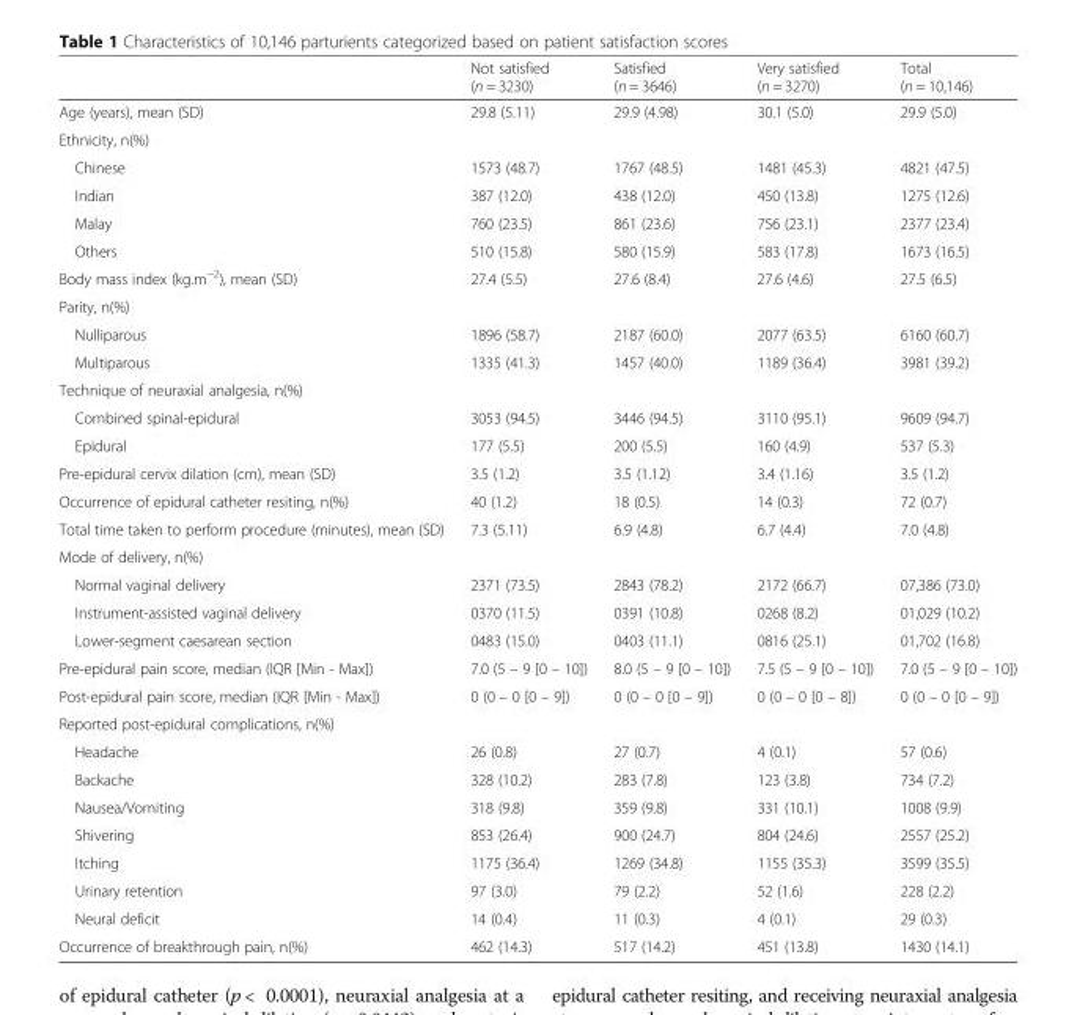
<table><thead><tr><td></td><td>Not satisfied (n = 3230)</td><td>Satisfied (n = 3646)</td><td>Very satisfied (n = 3270)</td><td>Total (n = 10,146)</td></tr></thead><tbody><tr><td>Age (years), mean (SD)</td><td>29.8 (5.11)</td><td>29.9 (4.98)</td><td>30.1 (5.0)</td><td>29.9 (5.0)</td></tr><tr><td colspan="5">Ethnicity, n(%)</td></tr><tr><td>Chinese</td><td>1573 (48.7)</td><td>1767 (48.5)</td><td>1481 (45.3)</td><td>4821 (47.5)</td></tr><tr><td>Indian</td><td>387 (12.0)</td><td>438 (12.0)</td><td>450 (13.8)</td><td>1275 (12.6)</td></tr><tr><td>Malay</td><td>760 (23.5)</td><td>861 (23.6)</td><td>756 (23.1)</td><td>2377 (23.4)</td></tr><tr><td>Others</td><td>510 (15.8)</td><td>580 (15.9)</td><td>583 (17.8)</td><td>1673 (16.5)</td></tr><tr><td>Body mass index (kg.m<sup>−2</sup>), mean (SD)</td><td>27.4 (5.5)</td><td>27.6 (8.4)</td><td>27.6 (4.6)</td><td>27.5 (6.5)</td></tr><tr><td colspan="5">Parity, n(%)</td></tr><tr><td>Nulliparous</td><td>1896 (58.7)</td><td>2187 (60.0)</td><td>2077 (63.5)</td><td>6160 (60.7)</td></tr><tr><td>Multiparous</td><td>1335 (41.3)</td><td>1457 (40.0)</td><td>1189 (36.4)</td><td>3981 (39.2)</td></tr><tr><td colspan="5">Technique of neuraxial analgesia, n(%)</td></tr><tr><td>Combined spinal-epidural</td><td>3053 (94.5)</td><td>3446 (94.5)</td><td>3110 (95.1)</td><td>9609 (94.7)</td></tr><tr><td>Epidural</td><td>177 (5.5)</td><td>200 (5.5)</td><td>160 (4.9)</td><td>537 (5.3)</td></tr><tr><td>Pre-epidural cervix dilation (cm), mean (SD)</td><td>3.5 (1.2)</td><td>3.5 (1.12)</td><td>3.4 (1.16)</td><td>3.5 (1.2)</td></tr><tr><td>Occurrence of epidural catheter resiting, n(%)</td><td>40 (1.2)</td><td>18 (0.5)</td><td>14 (0.3)</td><td>72 (0.7)</td></tr><tr><td>Total time taken to perform procedure (minutes), mean (SD)</td><td>7.3 (5.11)</td><td>6.9 (4.8)</td><td>6.7 (4.4)</td><td>7.0 (4.8)</td></tr><tr><td colspan="5">Mode of delivery, n(%)</td></tr><tr><td>Normal vaginal delivery</td><td>2371 (73.5)</td><td>2843 (78.2)</td><td>2172 (66.7)</td><td>07,386 (73.0)</td></tr><tr><td>Instrument-assisted vaginal delivery</td><td>0370 (11.5)</td><td>0391 (10.8)</td><td>0268 (8.2)</td><td>01,029 (10.2)</td></tr><tr><td>Lower-segment caesarean section</td><td>0483 (15.0)</td><td>0403 (11.1)</td><td>0816 (25.1)</td><td>01,702 (16.8)</td></tr><tr><td>Pre-epidural pain score, median (IQR [Min - Max])</td><td>7.0 (5 – 9 [0 – 10])</td><td>8.0 (5 – 9 [0 – 10])</td><td>7.5 (5 – 9 [0 – 10])</td><td>7.0 (5 – 9 [0 – 10])</td></tr><tr><td>Post-epidural pain score, median (IQR [Min - Max])</td><td>0 (0 – 0 [0 – 9])</td><td>0 (0 – 0 [0 – 9])</td><td>0 (0 – 0 [0 – 8])</td><td>0 (0 – 0 [0 – 9])</td></tr><tr><td colspan="5">Reported post-epidural complications, n(%)</td></tr><tr><td>Headache</td><td>26 (0.8)</td><td>27 (0.7)</td><td>4 (0.1)</td><td>57 (0.6)</td></tr><tr><td>Backache</td><td>328 (10.2)</td><td>283 (7.8)</td><td>123 (3.8)</td><td>734 (7.2)</td></tr><tr><td>Nausea/Vomiting</td><td>318 (9.8)</td><td>359 (9.8)</td><td>331 (10.1)</td><td>1008 (9.9)</td></tr><tr><td>Shivering</td><td>853 (26.4)</td><td>900 (24.7)</td><td>804 (24.6)</td><td>2557 (25.2)</td></tr><tr><td>Itching</td><td>1175 (36.4)</td><td>1269 (34.8)</td><td>1155 (35.3)</td><td>3599 (35.5)</td></tr><tr><td>Urinary retention</td><td>97 (3.0)</td><td>79 (2.2)</td><td>52 (1.6)</td><td>228 (2.2)</td></tr><tr><td>Neural deficit</td><td>14 (0.4)</td><td>11 (0.3)</td><td>4 (0.1)</td><td>29 (0.3)</td></tr><tr><td>Occurrence of breakthrough pain, n(%)</td><td>462 (14.3)</td><td>517 (14.2)</td><td>451 (13.8)</td><td>1430 (14.1)</td></tr></tbody></table>